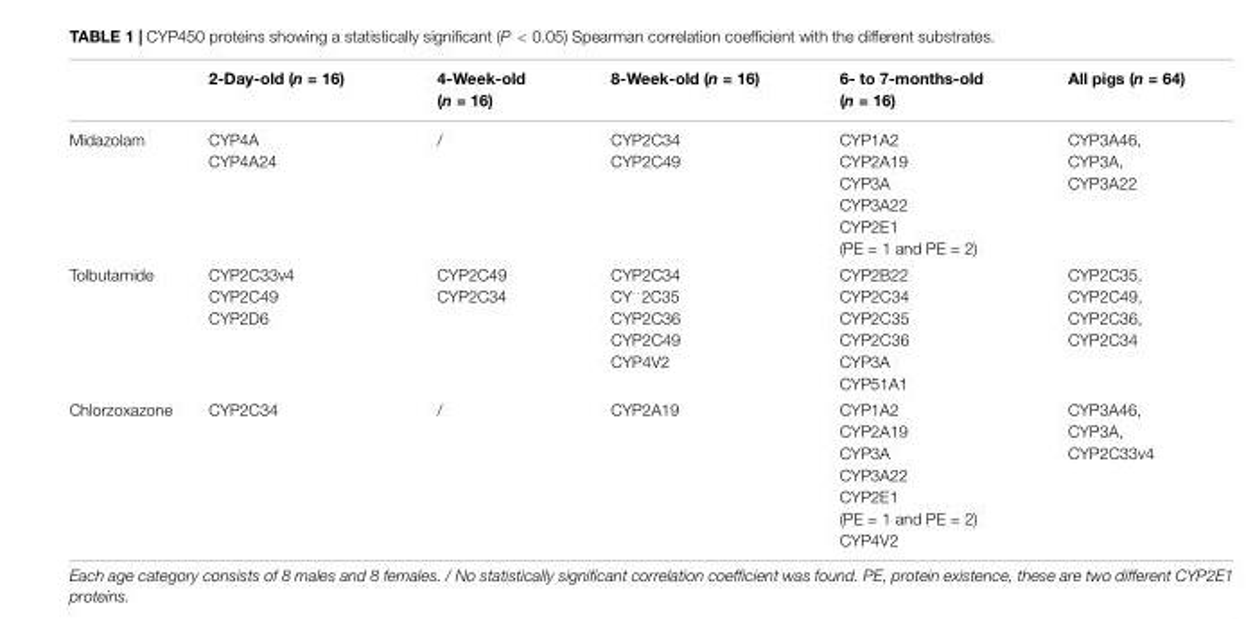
<table><thead><tr><td></td><td>2-Day-old (n = 16)</td><td>4-Week-old (n = 16)</td><td>8-Week-old (n = 16)</td><td>6- to 7-months-old (n = 16)</td><td>All pigs (n = 64)</td></tr></thead><tbody><tr><td>Midazolam</td><td>CYP4A CYP4A24</td><td>/</td><td>CYP2C34 CYP2C49</td><td>CYP1A2 CYP2A19 CYP3A CYP3A22 CYP2E1 (PE = 1 and PE = 2)</td><td>CYP3A46, CYP3A, CYP3A22</td></tr><tr><td>Tolbutamide</td><td>CYP2C33v4 CYP2C49 CYP2D6</td><td>CYP2C49 CYP2C34</td><td>CYP2C34 CY··2C35 CYP2C36 CYP2C49 CYP4V2</td><td>CYP2B22 CYP2C34 CYP2C35 CYP2C36 CYP3A CYP51A1</td><td>CYP2C35, CYP2C49, CYP2C36, CYP2C34</td></tr><tr><td>Chlorzoxazone</td><td>CYP2C34</td><td>/</td><td>CYP2A19</td><td>CYP1A2 CYP2A19 CYP3A CYP3A22 CYP2E1 (PE = 1 and PE = 2) CYP4V2</td><td>CYP3A46, CYP3A, CYP2C33v4</td></tr></tbody></table>